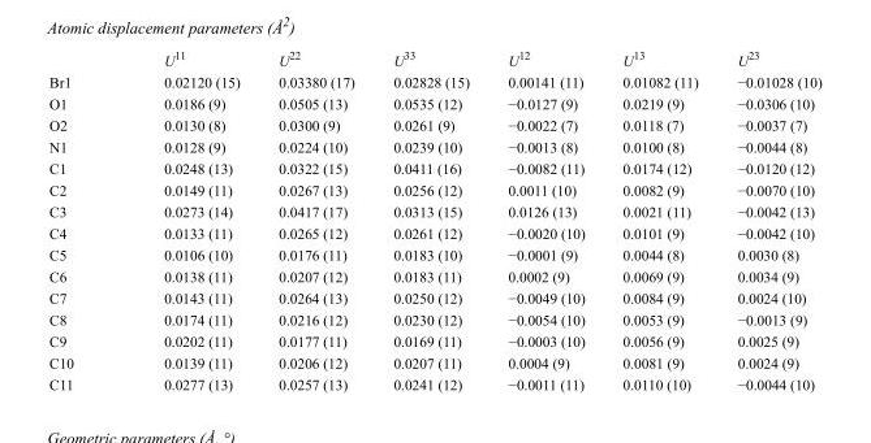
<table><thead><tr><td></td><td>U<sup>11</sup></td><td>U<sup>22</sup></td><td>U<sup>33</sup></td><td>U<sup>12</sup></td><td>U<sup>13</sup></td><td>U<sup>23</sup></td></tr></thead><tbody><tr><td>Br1</td><td>0.02120 (15)</td><td>0.03380 (17)</td><td>0.02828 (15)</td><td>0.00141 (11)</td><td>0.01082 (11)</td><td>−0.01028 (10)</td></tr><tr><td>O1</td><td>0.0186 (9)</td><td>0.0505 (13)</td><td>0.0535 (12)</td><td>−0.0127 (9)</td><td>0.0219 (9)</td><td>−0.0306 (10)</td></tr><tr><td>O2</td><td>0.0130 (8)</td><td>0.0300 (9)</td><td>0.0261 (9)</td><td>−0.0022 (7)</td><td>0.0118 (7)</td><td>−0.0037 (7)</td></tr><tr><td>N1</td><td>0.0128 (9)</td><td>0.0224 (10)</td><td>0.0239 (10)</td><td>−0.0013 (8)</td><td>0.0100 (8)</td><td>−0.0044 (8)</td></tr><tr><td>C1</td><td>0.0248 (13)</td><td>0.0322 (15)</td><td>0.0411 (16)</td><td>−0.0082 (11)</td><td>0.0174 (12)</td><td>−0.0120 (12)</td></tr><tr><td>C2</td><td>0.0149 (11)</td><td>0.0267 (13)</td><td>0.0256 (12)</td><td>0.0011 (10)</td><td>0.0082 (9)</td><td>−0.0070 (10)</td></tr><tr><td>C3</td><td>0.0273 (14)</td><td>0.0417 (17)</td><td>0.0313 (15)</td><td>0.0126 (13)</td><td>0.0021 (11)</td><td>−0.0042 (13)</td></tr><tr><td>C4</td><td>0.0133 (11)</td><td>0.0265 (12)</td><td>0.0261 (12)</td><td>−0.0020 (10)</td><td>0.0101 (9)</td><td>−0.0042 (10)</td></tr><tr><td>C5</td><td>0.0106 (10)</td><td>0.0176 (11)</td><td>0.0183 (10)</td><td>−0.0001 (9)</td><td>0.0044 (8)</td><td>0.0030 (8)</td></tr><tr><td>C6</td><td>0.0138 (11)</td><td>0.0207 (12)</td><td>0.0183 (11)</td><td>0.0002 (9)</td><td>0.0069 (9)</td><td>0.0034 (9)</td></tr><tr><td>C7</td><td>0.0143 (11)</td><td>0.0264 (13)</td><td>0.0250 (12)</td><td>−0.0049 (10)</td><td>0.0084 (9)</td><td>0.0024 (10)</td></tr><tr><td>C8</td><td>0.0174 (11)</td><td>0.0216 (12)</td><td>0.0230 (12)</td><td>−0.0054 (10)</td><td>0.0053 (9)</td><td>−0.0013 (9)</td></tr><tr><td>C9</td><td>0.0202 (11)</td><td>0.0177 (11)</td><td>0.0169 (11)</td><td>−0.0003 (10)</td><td>0.0056 (9)</td><td>0.0025 (9)</td></tr><tr><td>C10</td><td>0.0139 (11)</td><td>0.0206 (12)</td><td>0.0207 (11)</td><td>0.0004 (9)</td><td>0.0081 (9)</td><td>0.0024 (9)</td></tr><tr><td>C11</td><td>0.0277 (13)</td><td>0.0257 (13)</td><td>0.0241 (12)</td><td>−0.0011 (11)</td><td>0.0110 (10)</td><td>−0.0044 (10)</td></tr></tbody></table>